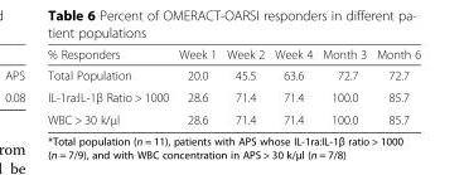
<table><thead><tr><td>% Responders</td><td>Week 1</td><td>Week 2</td><td>Week 4</td><td>Month 3</td><td>Month 6</td></tr></thead><tbody><tr><td>Total Population</td><td>20.0</td><td>45.5</td><td>63.6</td><td>72.7</td><td>72.7</td></tr><tr><td>IL-1ra:IL-1β Ratio &gt; 1000</td><td>28.6</td><td>71.4</td><td>71.4</td><td>100.0</td><td>85.7</td></tr><tr><td>WBC &gt; 30 k/μl</td><td>28.6</td><td>71.4</td><td>71.4</td><td>100.0</td><td>85.7</td></tr></tbody></table>